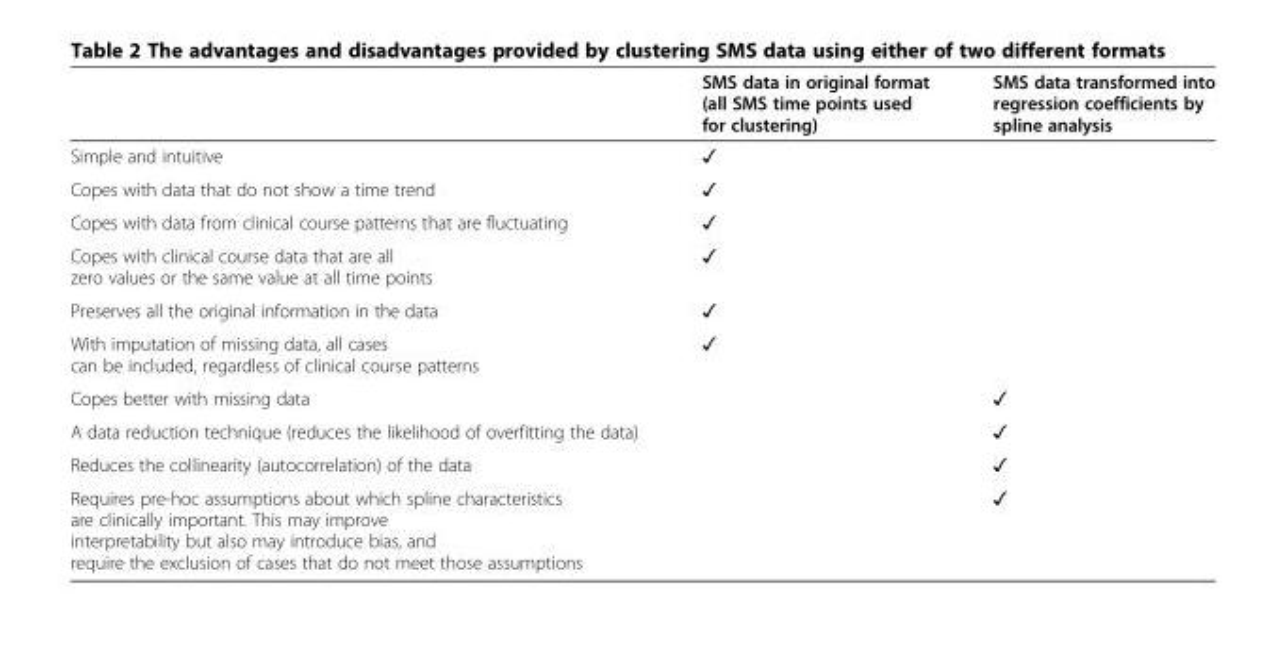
<table><thead><tr><td></td><td>SMS data in original format (all SMS time points used for clustering)</td><td>SMS data transformed into regression coefficients by spline analysis</td></tr></thead><tbody><tr><td>Simple and intuitive</td><td>✓</td><td></td></tr><tr><td>Copes with data that do not show a time trend</td><td>✓</td><td></td></tr><tr><td>Copes with data from clinical course patterns that are fluctuating</td><td>✓</td><td></td></tr><tr><td>Copes with clinical course data that are all zero values or the same value at all time points</td><td>✓</td><td></td></tr><tr><td>Preserves all the original information in the data</td><td>✓</td><td></td></tr><tr><td>With imputation of missing data, all cases can be included, regardless of clinical course patterns</td><td>✓</td><td></td></tr><tr><td>Copes better with missing data</td><td></td><td>✓</td></tr><tr><td>A data reduction technique (reduces the likelihood of overfitting the data)</td><td></td><td>✓</td></tr><tr><td>Reduces the collinearity (autocorrelation) of the data</td><td></td><td>✓</td></tr><tr><td>Requires pre-hoc assumptions about which spline characteristics are clinically important. This may improve interpretability but also may introduce bias, and require the exclusion of cases that do not meet those assumptions</td><td></td><td>✓</td></tr></tbody></table>